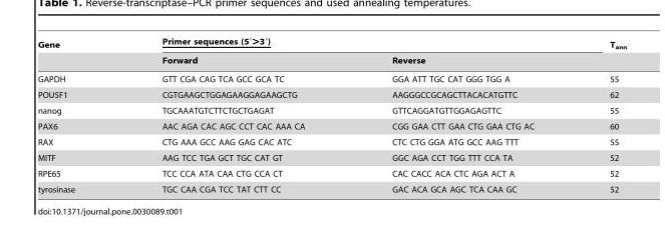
<table><thead><tr><td rowspan="2">Gene</td><td colspan="2">Primer sequences (59. .39)</td><td rowspan="2">T<sub>ann</sub></td></tr><tr><td>Forward</td><td>Reverse</td></tr></thead><tbody><tr><td>GAPDH</td><td>GTT CGA CAG TCA GCC GCA TC</td><td>GGA ATT TGC CAT GGG TGG A</td><td>55</td></tr><tr><td>POU5F1</td><td>CGTGAAGCTGGAGAAGGAGAAGCTG</td><td>AAGGGCCGCAGCTTACACATGTTC</td><td>62</td></tr><tr><td>nanog</td><td>TGCAAATGTCTTCTGCTGAGAT</td><td>GTTCAGGATGTTGGAGAGTTC</td><td>55</td></tr><tr><td>PAX6</td><td>AAC AGA CAC AGC CCT CAC AAA CA</td><td>CGG GAA CTT GAA CTG GAA CTG AC</td><td>60</td></tr><tr><td>RAX</td><td>CTG AAA GCC AAG GAG CAC ATC</td><td>CTC CTG GGA ATG GCC AAG TTT</td><td>55</td></tr><tr><td>MITF</td><td>AAG TCC TGA GCT TGC CAT GT</td><td>GGC AGA CCT TGG TTT CCA TA</td><td>52</td></tr><tr><td>RPE65</td><td>TCC CCA ATA CAA CTG CCA CT</td><td>CAC CACC ACA CTC AGA ACT A</td><td>52</td></tr><tr><td>tyrosinase</td><td>TGC CAA CGA TCC TAT CTT CC</td><td>GAC ACA GCA AGC TCA CAA GC</td><td>52</td></tr></tbody></table>